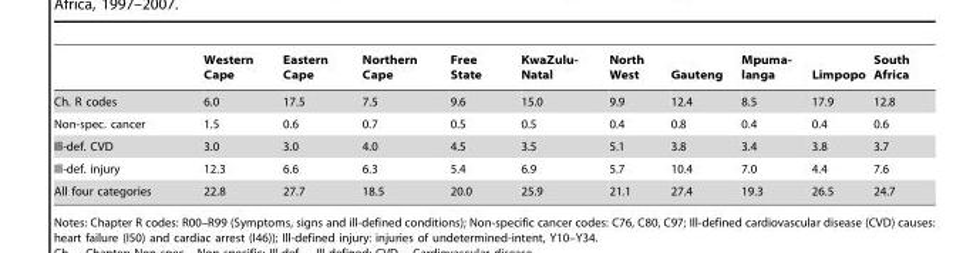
<table><thead><tr><td></td><td>Western Cape</td><td>Eastern Cape</td><td>Northern Cape</td><td>Free State</td><td>KwaZulu- Natal</td><td>North West</td><td>Gauteng</td><td>Mpuma- langa</td><td>Limpopo</td><td>South Africa</td></tr></thead><tbody><tr><td>Ch. R codes</td><td>6.0</td><td>17.5</td><td>7.5</td><td>9.6</td><td>15.0</td><td>9.9</td><td>12.4</td><td>8.5</td><td>17.9</td><td>12.8</td></tr><tr><td>Non-spec. cancer</td><td>1.5</td><td>0.6</td><td>0.7</td><td>0.5</td><td>0.5</td><td>0.4</td><td>0.8</td><td>0.4</td><td>0.4</td><td>0.6</td></tr><tr><td>Ill-def. CVD</td><td>3.0</td><td>3.0</td><td>4.0</td><td>4.5</td><td>3.5</td><td>5.1</td><td>3.8</td><td>3.4</td><td>3.8</td><td>3.7</td></tr><tr><td>Ill-def. injury</td><td>12.3</td><td>6.6</td><td>6.3</td><td>5.4</td><td>6.9</td><td>5.7</td><td>10.4</td><td>7.0</td><td>4.4</td><td>7.6</td></tr><tr><td>All four categories</td><td>22.8</td><td>27.7</td><td>18.5</td><td>20.0</td><td>25.9</td><td>21.1</td><td>27.4</td><td>19.3</td><td>26.5</td><td>24.7</td></tr></tbody></table>